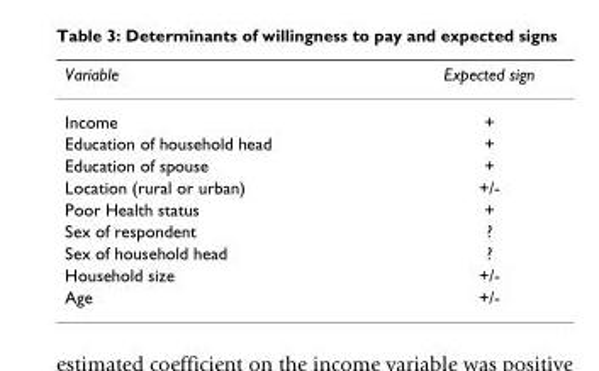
<table><thead><tr><td>Variable</td><td>Expected sign</td></tr></thead><tbody><tr><td>Income</td><td>+</td></tr><tr><td>Education of household head</td><td>+</td></tr><tr><td>Education of spouse</td><td>+</td></tr><tr><td>Location (rural or urban)</td><td>+/-</td></tr><tr><td>Poor Health status</td><td>+</td></tr><tr><td>Sex of respondent</td><td>?</td></tr><tr><td>Sex of household head</td><td>?</td></tr><tr><td>Household size</td><td>+/-</td></tr><tr><td>Age</td><td>+/-</td></tr></tbody></table>